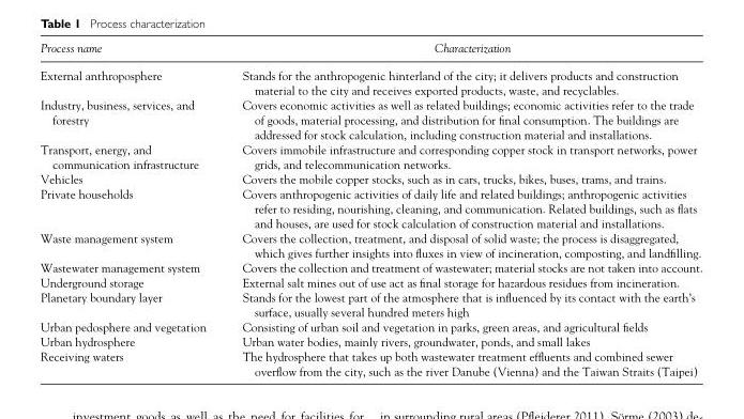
<table><thead><tr><td>Process name</td><td>Characterization</td></tr></thead><tbody><tr><td>External anthroposphere</td><td>Stands for the anthropogenic hinterland of the city; it delivers products and construction material to the city and receives exported products, waste, and recyclables.</td></tr><tr><td>Industry, business, services, and forestry</td><td>Covers economic activities as well as related buildings; economic activities refer to the trade of goods, material processing, and distribution for final consumption. The buildings are addressed for stock calculation, including construction material and installations.</td></tr><tr><td>Transport, energy, and communication infrastructure</td><td>Covers immobile infrastructure and corresponding copper stock in transport networks, power grids, and telecommunication networks.</td></tr><tr><td>Vehicles</td><td>Covers the mobile copper stocks, such as in cars, trucks, bikes, buses, trams, and trains.</td></tr><tr><td>Private households</td><td>Covers anthropogenic activities of daily life and related buildings; anthropogenic activities refer to residing, nourishing, cleaning, and communication. Related buildings, such as flats and houses, are used for stock calculation of construction material and installations.</td></tr><tr><td>Waste management system</td><td>Covers the collection, treatment, and disposal of solid waste; the process is disaggregated, which gives further insights into fluxes in view of incineration, composting, and landfilling.</td></tr><tr><td>Wastewater management system</td><td>Covers the collection and treatment of wastewater; material stocks are not taken into account.</td></tr><tr><td>Underground storage</td><td>External salt mines out of use act as final storage for hazardous residues from incineration.</td></tr><tr><td>Planetary boundary layer</td><td>Stands for the lowest part of the atmosphere that is influenced by its contact with the earth’s surface, usually several hundred meters high</td></tr><tr><td>Urban pedosphere and vegetation</td><td>Consisting of urban soil and vegetation in parks, green areas, and agricultural fields</td></tr><tr><td>Urban hydrosphere</td><td>Urban water bodies, mainly rivers, groundwater, ponds, and small lakes</td></tr><tr><td>Receiving waters</td><td>The hydrosphere that takes up both wastewater treatment effluents and combined sewer overflow from the city, such as the river Danube (Vienna) and the Taiwan Straits (Taipei)</td></tr></tbody></table>